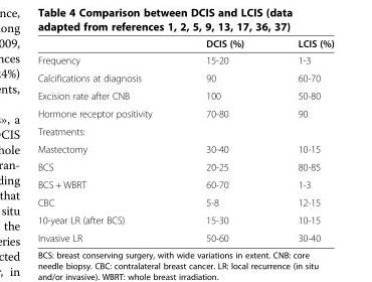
<table><thead><tr><td></td><td>DCIS (%)</td><td>LCIS (%)</td></tr></thead><tbody><tr><td>Frequency</td><td>15-20</td><td>1-3</td></tr><tr><td>Calcifications at diagnosis</td><td>90</td><td>60-70</td></tr><tr><td>Excision rate after CNB</td><td>100</td><td>50-80</td></tr><tr><td>Hormone receptor positivity</td><td>70-80</td><td>90</td></tr><tr><td colspan="3">Treatments:</td></tr><tr><td>Mastectomy</td><td>30-40</td><td>10-15</td></tr><tr><td>BCS</td><td>20-25</td><td>80-85</td></tr><tr><td>BCS + WBRT</td><td>60-70</td><td>1-3</td></tr><tr><td>CBC</td><td>5-8</td><td>12-15</td></tr><tr><td>10-year LR (after BCS)</td><td>15-30</td><td>10-15</td></tr><tr><td>Invasive LR</td><td>50-60</td><td>30-40</td></tr></tbody></table>